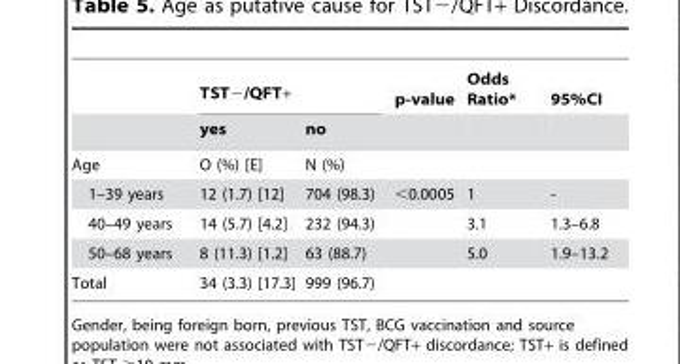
<table><thead><tr><td rowspan="2"></td><td colspan="2">TST−/QFT+</td><td rowspan="2">p-value</td><td rowspan="2">Odds Ratio*</td><td rowspan="2">95%CI</td></tr><tr><td>yes</td><td>no</td></tr></thead><tbody><tr><td>Age</td><td>O (%) [E]</td><td>N (%)</td><td></td><td></td><td></td></tr><tr><td>1–39 years</td><td>12 (1.7) [12]</td><td>704 (98.3)</td><td>&lt;0.0005</td><td>1</td><td>-</td></tr><tr><td>40–49 years</td><td>14 (5.7) [4.2]</td><td>232 (94.3)</td><td></td><td>3.1</td><td>1.3–6.8</td></tr><tr><td>50–68 years</td><td>8 (11.3) [1.2]</td><td>63 (88.7)</td><td></td><td>5.0</td><td>1.9–13.2</td></tr><tr><td>Total</td><td>34 (3.3) [17.3]</td><td>999 (96.7)</td><td></td><td></td><td></td></tr></tbody></table>